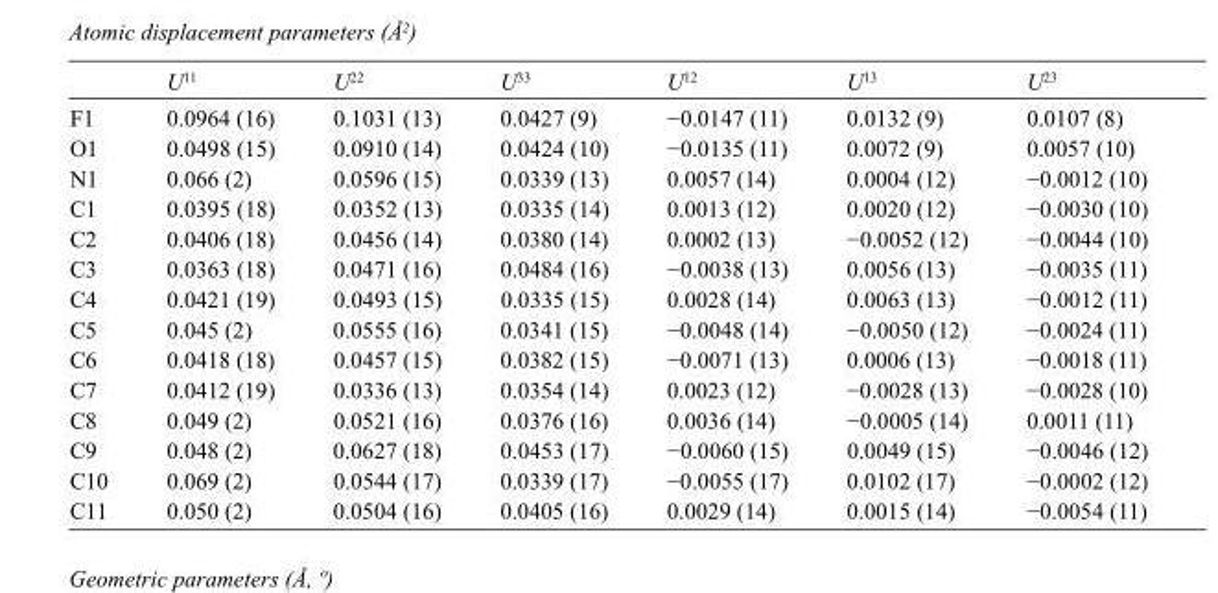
<table><thead><tr><td></td><td>U<sup>11</sup></td><td>U<sup>22</sup></td><td>U<sup>33</sup></td><td>U<sup>12</sup></td><td>U<sup>13</sup></td><td>U<sup>23</sup></td></tr></thead><tbody><tr><td>F1</td><td>0.0964 (16)</td><td>0.1031 (13)</td><td>0.0427 (9)</td><td>−0.0147 (11)</td><td>0.0132 (9)</td><td>0.0107 (8)</td></tr><tr><td>O1</td><td>0.0498 (15)</td><td>0.0910 (14)</td><td>0.0424 (10)</td><td>−0.0135 (11)</td><td>0.0072 (9)</td><td>0.0057 (10)</td></tr><tr><td>N1</td><td>0.066 (2)</td><td>0.0596 (15)</td><td>0.0339 (13)</td><td>0.0057 (14)</td><td>0.0004 (12)</td><td>−0.0012 (10)</td></tr><tr><td>C1</td><td>0.0395 (18)</td><td>0.0352 (13)</td><td>0.0335 (14)</td><td>0.0013 (12)</td><td>0.0020 (12)</td><td>−0.0030 (10)</td></tr><tr><td>C2</td><td>0.0406 (18)</td><td>0.0456 (14)</td><td>0.0380 (14)</td><td>0.0002 (13)</td><td>−0.0052 (12)</td><td>−0.0044 (10)</td></tr><tr><td>C3</td><td>0.0363 (18)</td><td>0.0471 (16)</td><td>0.0484 (16)</td><td>−0.0038 (13)</td><td>0.0056 (13)</td><td>−0.0035 (11)</td></tr><tr><td>C4</td><td>0.0421 (19)</td><td>0.0493 (15)</td><td>0.0335 (15)</td><td>0.0028 (14)</td><td>0.0063 (13)</td><td>−0.0012 (11)</td></tr><tr><td>C5</td><td>0.045 (2)</td><td>0.0555 (16)</td><td>0.0341 (15)</td><td>−0.0048 (14)</td><td>−0.0050 (12)</td><td>−0.0024 (11)</td></tr><tr><td>C6</td><td>0.0418 (18)</td><td>0.0457 (15)</td><td>0.0382 (15)</td><td>−0.0071 (13)</td><td>0.0006 (13)</td><td>−0.0018 (11)</td></tr><tr><td>C7</td><td>0.0412 (19)</td><td>0.0336 (13)</td><td>0.0354 (14)</td><td>0.0023 (12)</td><td>−0.0028 (13)</td><td>−0.0028 (10)</td></tr><tr><td>C8</td><td>0.049 (2)</td><td>0.0521 (16)</td><td>0.0376 (16)</td><td>0.0036 (14)</td><td>−0.0005 (14)</td><td>0.0011 (11)</td></tr><tr><td>C9</td><td>0.048 (2)</td><td>0.0627 (18)</td><td>0.0453 (17)</td><td>−0.0060 (15)</td><td>0.0049 (15)</td><td>−0.0046 (12)</td></tr><tr><td>C10</td><td>0.069 (2)</td><td>0.0544 (17)</td><td>0.0339 (17)</td><td>−0.0055 (17)</td><td>0.0102 (17)</td><td>−0.0002 (12)</td></tr><tr><td>C11</td><td>0.050 (2)</td><td>0.0504 (16)</td><td>0.0405 (16)</td><td>0.0029 (14)</td><td>0.0015 (14)</td><td>−0.0054 (11)</td></tr></tbody></table>